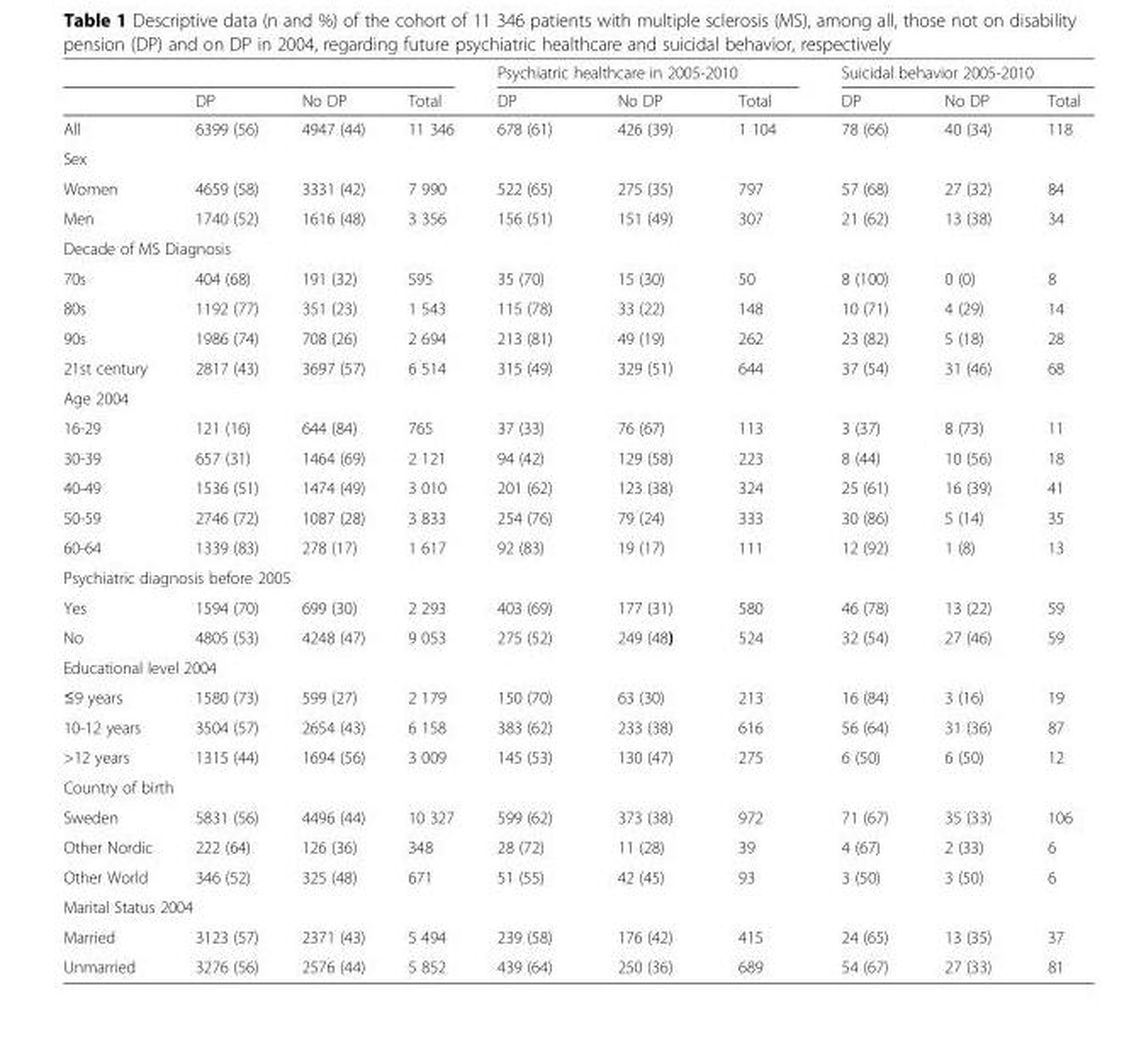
<table><thead><tr><td rowspan="2"></td><td rowspan="2">DP</td><td rowspan="2">No DP</td><td rowspan="2">Total</td><td colspan="3">Psychiatric healthcare in 2005-2010</td><td colspan="3">Suicidal behavior 2005-2010</td></tr><tr><td>DP</td><td>No DP</td><td>Total</td><td>DP</td><td>No DP</td><td>Total</td></tr></thead><tbody><tr><td>All</td><td>6399 (56)</td><td>4947 (44)</td><td>11 346</td><td>678 (61)</td><td>426 (39)</td><td>1 104</td><td>78 (66)</td><td>40 (34)</td><td>118</td></tr><tr><td colspan="10">Sex</td></tr><tr><td>Women</td><td>4659 (58)</td><td>3331 (42)</td><td>7 990</td><td>522 (65)</td><td>275 (35)</td><td>797</td><td>57 (68)</td><td>27 (32)</td><td>84</td></tr><tr><td>Men</td><td>1740 (52)</td><td>1616 (48)</td><td>3 356</td><td>156 (51)</td><td>151 (49)</td><td>307</td><td>21 (62)</td><td>13 (38)</td><td>34</td></tr><tr><td colspan="10">Decade of MS Diagnosis</td></tr><tr><td>70s</td><td>404 (68)</td><td>191 (32)</td><td>595</td><td>35 (70)</td><td>15 (30)</td><td>50</td><td>8 (100)</td><td>0 (0)</td><td>8</td></tr><tr><td>80s</td><td>1192 (77)</td><td>351 (23)</td><td>1 543</td><td>115 (78)</td><td>33 (22)</td><td>148</td><td>10 (71)</td><td>4 (29)</td><td>14</td></tr><tr><td>90s</td><td>1986 (74)</td><td>708 (26)</td><td>2 694</td><td>213 (81)</td><td>49 (19)</td><td>262</td><td>23 (82)</td><td>5 (18)</td><td>28</td></tr><tr><td>21st century</td><td>2817 (43)</td><td>3697 (57)</td><td>6 514</td><td>315 (49)</td><td>329 (51)</td><td>644</td><td>37 (54)</td><td>31 (46)</td><td>68</td></tr><tr><td colspan="10">Age 2004</td></tr><tr><td>16-29</td><td>121 (16)</td><td>644 (84)</td><td>765</td><td>37 (33)</td><td>76 (67)</td><td>113</td><td>3 (37)</td><td>8 (73)</td><td>11</td></tr><tr><td>30-39</td><td>657 (31)</td><td>1464 (69)</td><td>2 121</td><td>94 (42)</td><td>129 (58)</td><td>223</td><td>8 (44)</td><td>10 (56)</td><td>18</td></tr><tr><td>40-49</td><td>1536 (51)</td><td>1474 (49)</td><td>3 010</td><td>201 (62)</td><td>123 (38)</td><td>324</td><td>25 (61)</td><td>16 (39)</td><td>41</td></tr><tr><td>50-59</td><td>2746 (72)</td><td>1087 (28)</td><td>3 833</td><td>254 (76)</td><td>79 (24)</td><td>333</td><td>30 (86)</td><td>5 (14)</td><td>35</td></tr><tr><td>60-64</td><td>1339 (83)</td><td>278 (17)</td><td>1 617</td><td>92 (83)</td><td>19 (17)</td><td>111</td><td>12 (92)</td><td>1 (8)</td><td>13</td></tr><tr><td colspan="10">Psychiatric diagnosis before 2005</td></tr><tr><td>Yes</td><td>1594 (70)</td><td>699 (30)</td><td>2 293</td><td>403 (69)</td><td>177 (31)</td><td>580</td><td>46 (78)</td><td>13 (22)</td><td>59</td></tr><tr><td>No</td><td>4805 (53)</td><td>4248 (47)</td><td>9 053</td><td>275 (52)</td><td>249 (48)</td><td>524</td><td>32 (54)</td><td>27 (46)</td><td>59</td></tr><tr><td colspan="10">Educational level 2004</td></tr><tr><td>≤9 years</td><td>1580 (73)</td><td>599 (27)</td><td>2 179</td><td>150 (70)</td><td>63 (30)</td><td>213</td><td>16 (84)</td><td>3 (16)</td><td>19</td></tr><tr><td>10-12 years</td><td>3504 (57)</td><td>2654 (43)</td><td>6 158</td><td>383 (62)</td><td>233 (38)</td><td>616</td><td>56 (64)</td><td>31 (36)</td><td>87</td></tr><tr><td>&gt;12 years</td><td>1315 (44)</td><td>1694 (56)</td><td>3 009</td><td>145 (53)</td><td>130 (47)</td><td>275</td><td>6 (50)</td><td>6 (50)</td><td>12</td></tr><tr><td colspan="10">Country of birth</td></tr><tr><td>Sweden</td><td>5831 (56)</td><td>4496 (44)</td><td>10 327</td><td>599 (62)</td><td>373 (38)</td><td>972</td><td>71 (67)</td><td>35 (33)</td><td>106</td></tr><tr><td>Other Nordic</td><td>222 (64)</td><td>126 (36)</td><td>348</td><td>28 (72)</td><td>11 (28)</td><td>39</td><td>4 (67)</td><td>2 (33)</td><td>6</td></tr><tr><td>Other World</td><td>346 (52)</td><td>325 (48)</td><td>671</td><td>51 (55)</td><td>42 (45)</td><td>93</td><td>3 (50)</td><td>3 (50)</td><td>6</td></tr><tr><td colspan="10">Marital Status 2004</td></tr><tr><td>Married</td><td>3123 (57)</td><td>2371 (43)</td><td>5 494</td><td>239 (58)</td><td>176 (42)</td><td>415</td><td>24 (65)</td><td>13 (35)</td><td>37</td></tr><tr><td>Unmarried</td><td>3276 (56)</td><td>2576 (44)</td><td>5 852</td><td>439 (64)</td><td>250 (36)</td><td>689</td><td>54 (67)</td><td>27 (33)</td><td>81</td></tr></tbody></table>